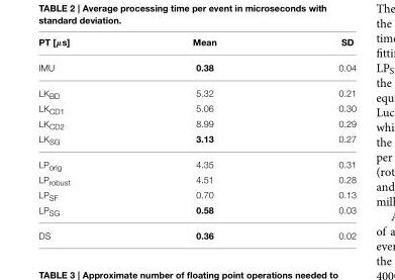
<table><thead><tr><td>PT [µs]</td><td>Mean</td><td>SD</td></tr></thead><tbody><tr><td>IMU</td><td>0.38</td><td>0.04</td></tr><tr><td>LK<sub>BD</sub></td><td>5.32</td><td>0.21</td></tr><tr><td>LK<sub>CD1</sub></td><td>5.06</td><td>0.30</td></tr><tr><td>LK<sub>CD2</sub></td><td>8.99</td><td>0.29</td></tr><tr><td>LK<sub>SG</sub></td><td>3.13</td><td>0.27</td></tr><tr><td>LP<sub>orig</sub></td><td>4.35</td><td>0.31</td></tr><tr><td>LP<sub>robust</sub></td><td>4.51</td><td>0.28</td></tr><tr><td>LP<sub>SF</sub></td><td>0.70</td><td>0.13</td></tr><tr><td>LP<sub>SG</sub></td><td>0.58</td><td>0.03</td></tr><tr><td>DS</td><td>0.36</td><td>0.02</td></tr></tbody></table>